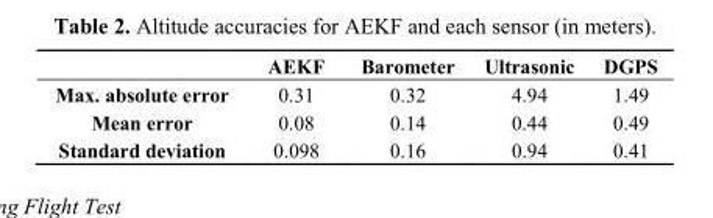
<table><thead><tr><td></td><td>AEKF</td><td>Barometer</td><td>Ultrasonic</td><td>DGPS</td></tr></thead><tbody><tr><td>Max. absolute error</td><td>0.31</td><td>0.32</td><td>4.94</td><td>1.49</td></tr><tr><td>Mean error</td><td>0.08</td><td>0.14</td><td>0.44</td><td>0.49</td></tr><tr><td>Standard deviation</td><td>0.098</td><td>0.16</td><td>0.94</td><td>0.41</td></tr></tbody></table>